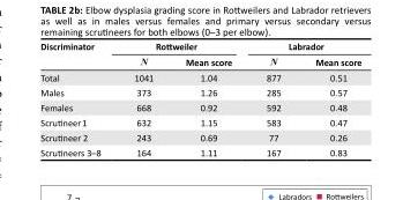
<table><thead><tr><td rowspan="2">Discriminator</td><td colspan="2">Rottweiler</td><td colspan="2">Labrador</td></tr><tr><td>N</td><td>Mean score</td><td>N</td><td>Mean score</td></tr></thead><tbody><tr><td>Total</td><td>1041</td><td>1.04</td><td>877</td><td>0.51</td></tr><tr><td>Males</td><td>373</td><td>1.26</td><td>285</td><td>0.57</td></tr><tr><td>Females</td><td>668</td><td>0.92</td><td>592</td><td>0.48</td></tr><tr><td>Scrutineer 1</td><td>632</td><td>1.15</td><td>583</td><td>0.47</td></tr><tr><td>Scrutineer 2</td><td>243</td><td>0.69</td><td>77</td><td>0.26</td></tr><tr><td>Scrutineers 3–8</td><td>164</td><td>1.11</td><td>167</td><td>0.83</td></tr></tbody></table>